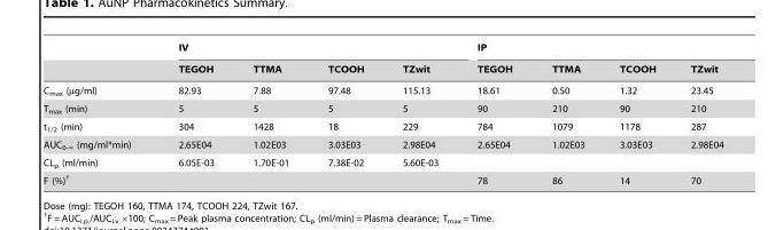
<table><thead><tr><td rowspan="2"></td><td colspan="4">IV</td><td colspan="4">IP</td></tr><tr><td>TEGOH</td><td>TTMA</td><td>TCOOH</td><td>TZwit</td><td>TEGOH</td><td>TTMA</td><td>TCOOH</td><td>TZwit</td></tr></thead><tbody><tr><td>C<sub>max</sub> (µg/ml)</td><td>82.93</td><td>7.88</td><td>97.48</td><td>115.13</td><td>18.61</td><td>0.50</td><td>1.32</td><td>23.45</td></tr><tr><td>T<sub>max</sub> (min)</td><td>5</td><td>5</td><td>5</td><td>5</td><td>90</td><td>210</td><td>90</td><td>210</td></tr><tr><td>t<sub>1/2</sub> (min)</td><td>304</td><td>1428</td><td>18</td><td>229</td><td>784</td><td>1079</td><td>1178</td><td>287</td></tr><tr><td>AUC0-‘ (mg/ml*min)</td><td>2.65E04</td><td>1.02E03</td><td>3.03E03</td><td>2.98E04</td><td>2.65E04</td><td>1.02E03</td><td>3.03E03</td><td>2.98E04</td></tr><tr><td>CL<sub>p</sub> (ml/min)</td><td>6.05E-03</td><td>1.70E-01</td><td>7.38E-02</td><td>5.60E-03</td><td></td><td></td><td></td><td></td></tr><tr><td>F (%)†</td><td></td><td></td><td></td><td></td><td>78</td><td>86</td><td>14</td><td>70</td></tr></tbody></table>